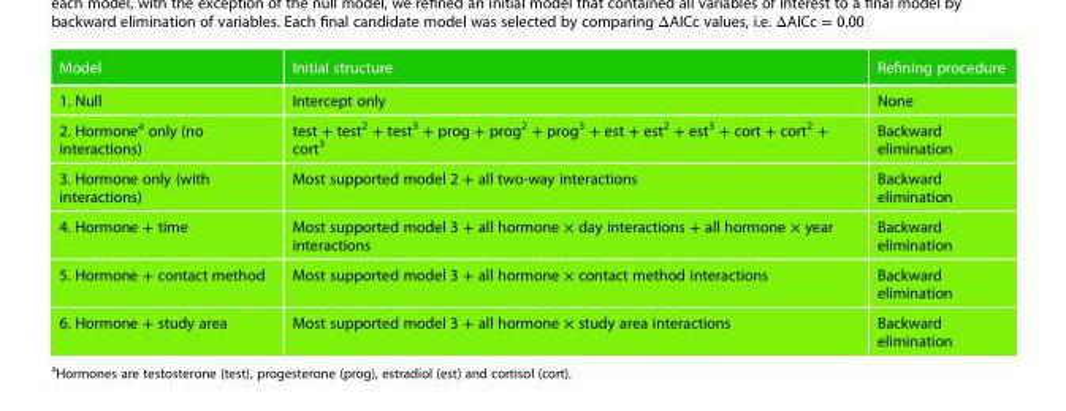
<table><thead><tr><td>Model</td><td>Initial structure</td><td>Refining procedure</td></tr></thead><tbody><tr><td>1. Null</td><td>Intercept only</td><td>None</td></tr><tr><td>2. Hormone<sup>a</sup> only (no interactions)</td><td>test + test<sup>2</sup> + test<sup>3</sup> + prog + prog<sup>2</sup> + prog<sup>3</sup> + est + est<sup>2</sup> + est<sup>3</sup> + cort + cort<sup>2</sup> + cort<sup>3</sup></td><td>Backward elimination</td></tr><tr><td>3. Hormone only (with interactions)</td><td>Most supported model 2 + all two-way interactions</td><td>Backward elimination</td></tr><tr><td>4. Hormone + time</td><td>Most supported model 3 + all hormone × day interactions + all hormone × year interactions</td><td>Backward elimination</td></tr><tr><td>5. Hormone + contact method</td><td>Most supported model 3 + all hormone × contact method interactions</td><td>Backward elimination</td></tr><tr><td>6. Hormone + study area</td><td>Most supported model 3 + all hormone × study area interactions</td><td>Backward elimination</td></tr></tbody></table>